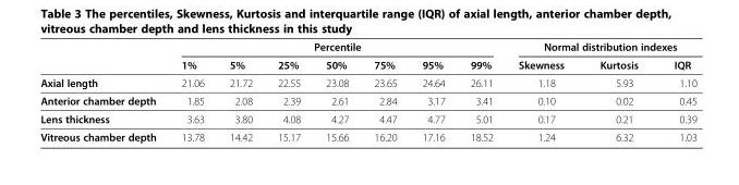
<table><thead><tr><td rowspan="2"></td><td colspan="7">Percentile</td><td colspan="3">Normal distribution indexes</td></tr><tr><td>1%</td><td>5%</td><td>25%</td><td>50%</td><td>75%</td><td>95%</td><td>99%</td><td>Skewness</td><td>Kurtosis</td><td>IQR</td></tr></thead><tbody><tr><td>Axial length</td><td>21.06</td><td>21.72</td><td>22.55</td><td>23.08</td><td>23.65</td><td>24.64</td><td>26.11</td><td>1.18</td><td>5.93</td><td>1.10</td></tr><tr><td>Anterior chamber depth</td><td>1.85</td><td>2.08</td><td>2.39</td><td>2.61</td><td>2.84</td><td>3.17</td><td>3.41</td><td>0.10</td><td>0.02</td><td>0.45</td></tr><tr><td>Lens thickness</td><td>3.63</td><td>3.80</td><td>4.08</td><td>4.27</td><td>4.47</td><td>4.77</td><td>5.01</td><td>0.17</td><td>0.21</td><td>0.39</td></tr><tr><td>Vitreous chamber depth</td><td>13.78</td><td>14.42</td><td>15.17</td><td>15.66</td><td>16.20</td><td>17.16</td><td>18.52</td><td>1.24</td><td>6.32</td><td>1.03</td></tr></tbody></table>